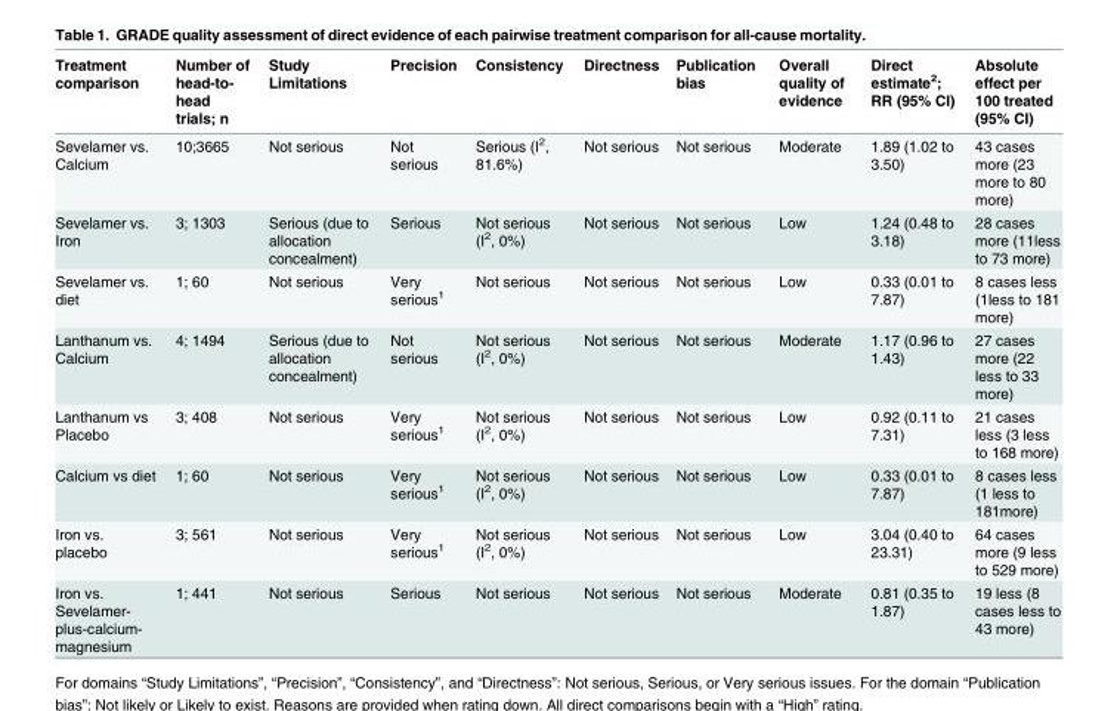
<table><thead><tr><td>Treatment comparison</td><td>Number of head-to- head trials; n</td><td>Study Limitations</td><td>Precision</td><td>Consistency</td><td>Directness</td><td>Publication bias</td><td>Overall quality of evidence</td><td>Direct estimate<sup>2</sup>; RR (95% CI)</td><td>Absolute effect per 100 treated (95% CI)</td></tr></thead><tbody><tr><td>Sevelamer vs. Calcium</td><td>10;3665</td><td>Not serious</td><td>Not serious</td><td>Serious (I<sup>2</sup>, 81.6%)</td><td>Not serious</td><td>Not serious</td><td>Moderate</td><td>1.89 (1.02 to 3.50)</td><td>43 cases more (23 more to 80 more)</td></tr><tr><td>Sevelamer vs. Iron</td><td>3; 1303</td><td>Serious (due to allocation concealment)</td><td>Serious</td><td>Not serious (I<sup>2</sup>, 0%)</td><td>Not serious</td><td>Not serious</td><td>Low</td><td>1.24 (0.48 to 3.18)</td><td>28 cases more (11less to 73 more)</td></tr><tr><td>Sevelamer vs. diet</td><td>1; 60</td><td>Not serious</td><td>Very serious<sup>1</sup></td><td>Not serious</td><td>Not serious</td><td>Not serious</td><td>Low</td><td>0.33 (0.01 to 7.87)</td><td>8 cases less (1less to 181 more)</td></tr><tr><td>Lanthanum vs. Calcium</td><td>4; 1494</td><td>Serious (due to allocation concealment)</td><td>Not serious</td><td>Not serious (I<sup>2</sup>, 0%)</td><td>Not serious</td><td>Not serious</td><td>Moderate</td><td>1.17 (0.96 to 1.43)</td><td>27 cases more (22 less to 33 more)</td></tr><tr><td>Lanthanum vs Placebo</td><td>3; 408</td><td>Not serious</td><td>Very serious<sup>1</sup></td><td>Not serious (I<sup>2</sup>, 0%)</td><td>Not serious</td><td>Not serious</td><td>Low</td><td>0.92 (0.11 to 7.31)</td><td>21 cases less (3 less to 168 more)</td></tr><tr><td>Calcium vs diet</td><td>1; 60</td><td>Not serious</td><td>Very serious<sup>1</sup></td><td>Not serious (I<sup>2</sup>, 0%)</td><td>Not serious</td><td>Not serious</td><td>Low</td><td>0.33 (0.01 to 7.87)</td><td>8 cases less (1 less to 181more)</td></tr><tr><td>Iron vs. placebo</td><td>3; 561</td><td>Not serious</td><td>Very serious<sup>1</sup></td><td>Not serious (I<sup>2</sup>, 0%)</td><td>Not serious</td><td>Not serious</td><td>Low</td><td>3.04 (0.40 to 23.31)</td><td>64 cases more (9 less to 529 more)</td></tr><tr><td>Iron vs. Sevelamer- plus-calcium- magnesium</td><td>1; 441</td><td>Not serious</td><td>Serious</td><td>Not serious</td><td>Not serious</td><td>Not serious</td><td>Moderate</td><td>0.81 (0.35 to 1.87)</td><td>19 less (8 cases less to 43 more)</td></tr></tbody></table>